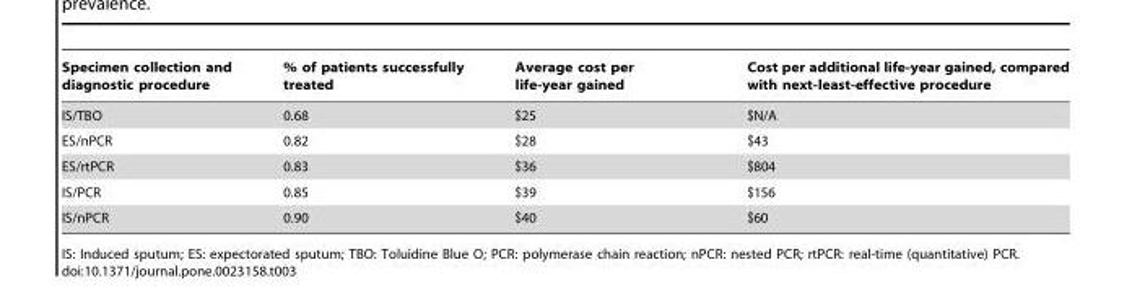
<table><thead><tr><td>Specimen collection and diagnostic procedure</td><td>% of patients successfully treated</td><td>Average cost per life-year gained</td><td>Cost per additional life-year gained, compared with next-least-effective procedure</td></tr></thead><tbody><tr><td>IS/TBO</td><td>0.68</td><td>$25</td><td>$N/A</td></tr><tr><td>ES/nPCR</td><td>0.82</td><td>$28</td><td>$43</td></tr><tr><td>ES/rtPCR</td><td>0.83</td><td>$36</td><td>$804</td></tr><tr><td>IS/PCR</td><td>0.85</td><td>$39</td><td>$156</td></tr><tr><td>IS/nPCR</td><td>0.90</td><td>$40</td><td>$60</td></tr></tbody></table>